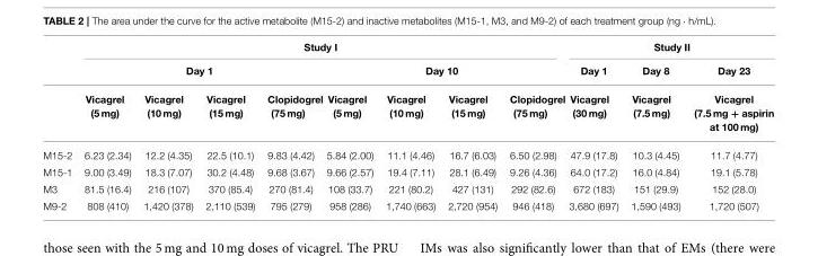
<table><thead><tr><td rowspan="3"></td><td colspan="8">Study I</td><td colspan="3">Study II</td></tr><tr><td colspan="4">Day 1</td><td colspan="4">Day 10</td><td rowspan="2">Day 1 Vicagrel (30 mg)</td><td rowspan="2">Day 8 Vicagrel (7.5 mg)</td><td rowspan="2">Day 23 Vicagrel (7.5 mg + aspirin at 100 mg)</td></tr><tr><td>Vicagrel (5 mg)</td><td>Vicagrel (10 mg)</td><td>Vicagrel (15 mg)</td><td>Clopidogrel (75 mg)</td><td>Vicagrel (5 mg)</td><td>Vicagrel (10 mg)</td><td>Vicagrel (15 mg)</td><td>Clopidogrel (75 mg)</td></tr></thead><tbody><tr><td>M15-2</td><td>6.23 (2.34)</td><td>12.2 (4.35)</td><td>22.5 (10.1)</td><td>9.83 (4.42)</td><td>5.84 (2.00)</td><td>11.1 (4.46)</td><td>16.7 (6.03)</td><td>6.50 (2.98)</td><td>47.9 (17.8)</td><td>10.3 (4.45)</td><td>11.7 (4.77)</td></tr><tr><td>M15-1</td><td>9.00 (3.49)</td><td>18.3 (7.07)</td><td>30.2 (4.48)</td><td>9.68 (3.67)</td><td>9.66 (2.57)</td><td>19.4 (7.11)</td><td>28.1 (6.49)</td><td>9.26 (4.36)</td><td>64.0 (17.2)</td><td>16.0 (4.84)</td><td>19.1 (5.78)</td></tr><tr><td>M3</td><td>81.5 (16.4)</td><td>216 (107)</td><td>370 (85.4)</td><td>270 (81.4)</td><td>108 (33.7)</td><td>221 (80.2)</td><td>427 (131)</td><td>292 (82.6)</td><td>672 (183)</td><td>151 (29.9)</td><td>152 (28.0)</td></tr><tr><td>M9-2</td><td>808 (410)</td><td>1,420 (378)</td><td>2,110 (539)</td><td>795 (279)</td><td>958 (286)</td><td>1,740 (663)</td><td>2,720 (954)</td><td>946 (418)</td><td>3,680 (697)</td><td>1,590 (493)</td><td>1,720 (507)</td></tr></tbody></table>